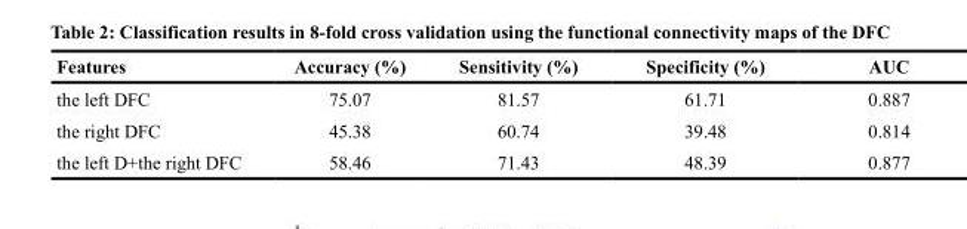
<table><thead><tr><td>Features</td><td>Accuracy (%)</td><td>Sensitivity (%)</td><td>Specificity (%)</td><td>AUC</td></tr></thead><tbody><tr><td>the left DFC</td><td>75.07</td><td>81.57</td><td>61.71</td><td>0.887</td></tr><tr><td>the right DFC</td><td>45.38</td><td>60.74</td><td>39.48</td><td>0.814</td></tr><tr><td>the left D+the right DFC</td><td>58.46</td><td>71.43</td><td>48.39</td><td>0.877</td></tr></tbody></table>